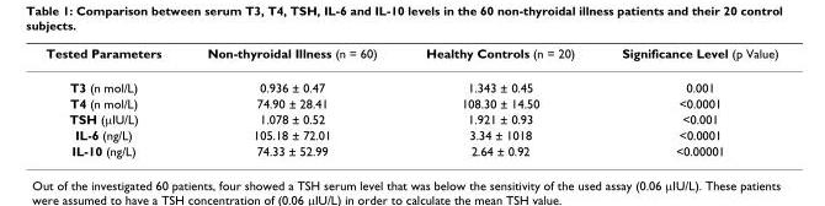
<table><thead><tr><td>Tested Parameters</td><td>Non-thyroidal Illness (n = 60)</td><td>Healthy Controls (n = 20)</td><td>Significance Level (p Value)</td></tr></thead><tbody><tr><td>T3 (n mol/L)</td><td>0.936 ± 0.47</td><td>1.343 ± 0.45</td><td>0.001</td></tr><tr><td>T4 (n mol/L)</td><td>74.90 ± 28.41</td><td>108.30 ± 14.50</td><td>&lt;0.0001</td></tr><tr><td>TSH (μIU/L)</td><td>1.078 ± 0.52</td><td>1.921 ± 0.93</td><td>&lt;0.001</td></tr><tr><td>IL-6 (ng/L)</td><td>105.18 ± 72.01</td><td>3.34 ± 1018</td><td>&lt;0.0001</td></tr><tr><td>IL-10 (ng/L)</td><td>74.33 ± 52.99</td><td>2.64 ± 0.92</td><td>&lt;0.00001</td></tr></tbody></table>